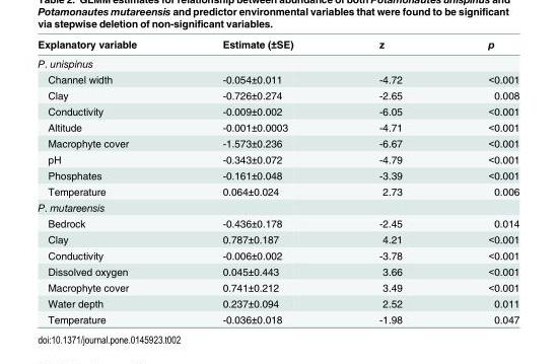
<table><thead><tr><td>Explanatory variable</td><td>Estimate (±SE)</td><td>z</td><td>p</td></tr></thead><tbody><tr><td colspan="4">P. unispinus</td></tr><tr><td>Channel width</td><td>-0.054±0.011</td><td>-4.72</td><td>&lt;0.001</td></tr><tr><td>Clay</td><td>-0.726±0.274</td><td>-2.65</td><td>0.008</td></tr><tr><td>Conductivity</td><td>-0.009±0.002</td><td>-6.05</td><td>&lt;0.001</td></tr><tr><td>Altitude</td><td>-0.001±0.0003</td><td>-4.71</td><td>&lt;0.001</td></tr><tr><td>Macrophyte cover</td><td>-1.573±0.236</td><td>-6.67</td><td>&lt;0.001</td></tr><tr><td>pH</td><td>-0.343±0.072</td><td>-4.79</td><td>&lt;0.001</td></tr><tr><td>Phosphates</td><td>-0.161±0.048</td><td>-3.39</td><td>&lt;0.001</td></tr><tr><td>Temperature</td><td>0.064±0.024</td><td>2.73</td><td>0.006</td></tr><tr><td colspan="4">P. mutareensis</td></tr><tr><td>Bedrock</td><td>-0.436±0.178</td><td>-2.45</td><td>0.014</td></tr><tr><td>Clay</td><td>0.787±0.187</td><td>4.21</td><td>&lt;0.001</td></tr><tr><td>Conductivity</td><td>-0.006±0.002</td><td>-3.78</td><td>&lt;0.001</td></tr><tr><td>Dissolved oxygen</td><td>0.045±0.443</td><td>3.66</td><td>&lt;0.001</td></tr><tr><td>Macrophyte cover</td><td>0.741±0.212</td><td>3.49</td><td>&lt;0.001</td></tr><tr><td>Water depth</td><td>0.237±0.094</td><td>2.52</td><td>0.011</td></tr><tr><td>Temperature</td><td>-0.036±0.018</td><td>-1.98</td><td>0.047</td></tr></tbody></table>